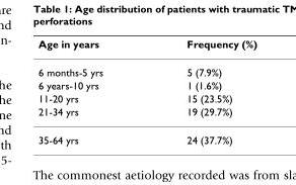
<table><thead><tr><td>Age in years</td><td>Frequency (%)</td></tr></thead><tbody><tr><td>6 months-5 yrs</td><td>5 (7.9%)</td></tr><tr><td>6 years-10 yrs</td><td>1 (1.6%)</td></tr><tr><td>11-20 yrs</td><td>15 (23.5%)</td></tr><tr><td>21-34 yrs</td><td>19 (29.7%)</td></tr><tr><td>35-64 yrs</td><td>24 (37.7%)</td></tr></tbody></table>